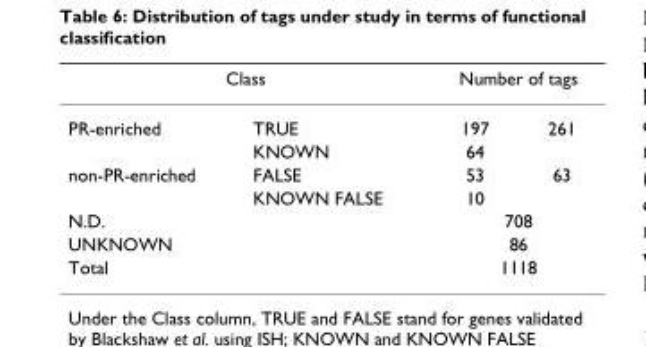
<table><thead><tr><td colspan="2">Class</td><td colspan="2">Number of tags</td></tr><tr><td>PR-enriched</td><td>TRUE</td><td>197</td><td>261</td></tr></thead><tbody><tr><td></td><td>KNOWN</td><td>64</td><td></td></tr><tr><td rowspan="2">non-PR-enriched</td><td>FALSE</td><td>53</td><td>63</td></tr><tr><td>KNOWN FALSE</td><td>10</td><td></td></tr><tr><td colspan="2">N.D.</td><td colspan="2">708</td></tr><tr><td colspan="2">UNKNOWN</td><td colspan="2">86</td></tr><tr><td colspan="2">Total</td><td colspan="2">1118</td></tr></tbody></table>